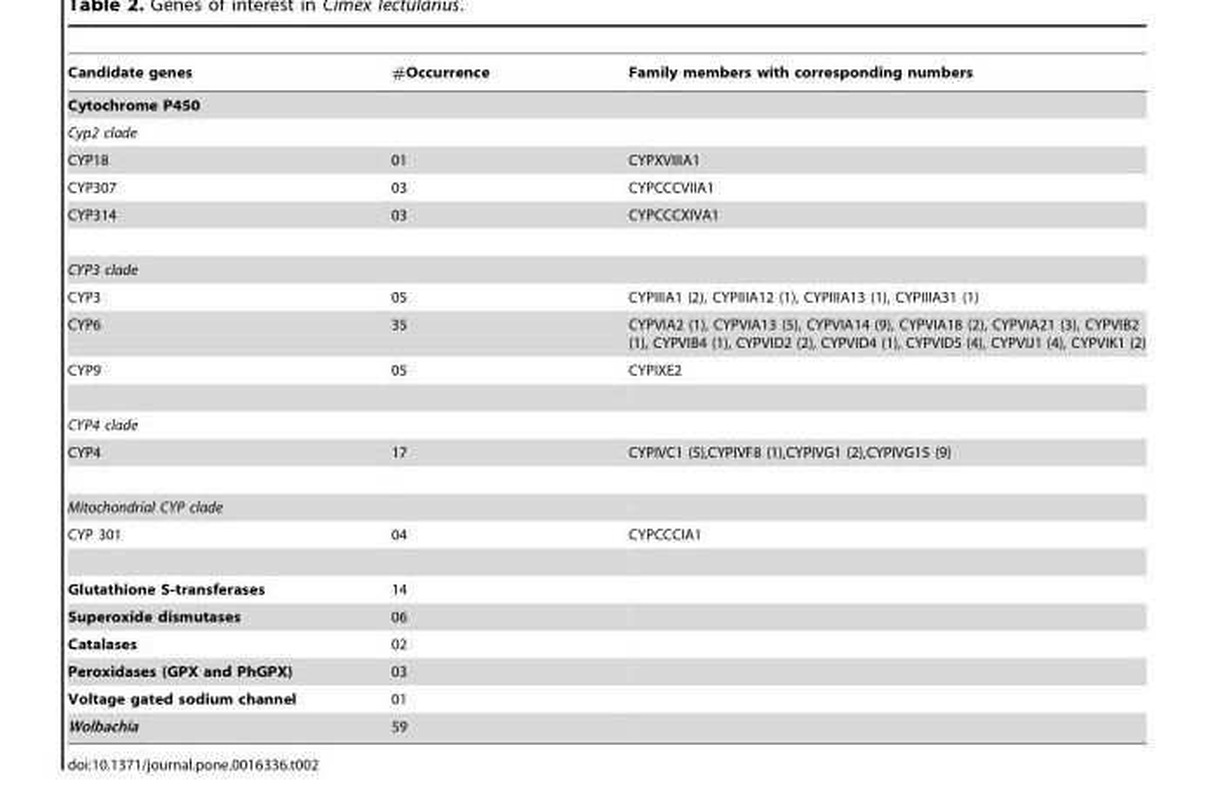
<table><thead><tr><td>Candidate genes</td><td>#Occurrence</td><td>Family members with corresponding numbers</td></tr></thead><tbody><tr><td colspan="3">Cytochrome P450</td></tr><tr><td colspan="3">Cyp2 clade</td></tr><tr><td>CYP18</td><td>01</td><td>CYPXVIIIA1</td></tr><tr><td>CYP307</td><td>03</td><td>CYPCCCVIIA1</td></tr><tr><td>CYP314</td><td>03</td><td>CYPCCCXIVA1</td></tr><tr><td colspan="3">CYP3 clade</td></tr><tr><td>CYP3</td><td>05</td><td>CYPIIIA1 (2), CYPIIIA12 (1), CYPIIIA13 (1), CYPIIIA31 (1)</td></tr><tr><td>CYP6</td><td>35</td><td>CYPVIA2 (1), CYPVIA13 (5), CYPVIA14 (9), CYPVIA18 (2), CYPVIA21 (3), CYPVIB2 (1), CYPVIB4 (1), CYPVID2 (2), CYPVID4 (1), CYPVID5 (4), CYPVIJ1 (4), CYPVIK1 (2)</td></tr><tr><td>CYP9</td><td>05</td><td>CYPIXE2</td></tr><tr><td colspan="3">CYP4 clade</td></tr><tr><td>CYP4</td><td>17</td><td>CYPIVC1 (5),CYPIVF8 (1),CYPIVG1 (2),CYPIVG15 (9)</td></tr><tr><td colspan="3">Mitochondrial CYP clade</td></tr><tr><td>CYP 301</td><td>04</td><td>CYPCCCIA1</td></tr><tr><td>Glutathione S-transferases</td><td>14</td><td></td></tr><tr><td>Superoxide dismutases</td><td>06</td><td></td></tr><tr><td>Catalases</td><td>02</td><td></td></tr><tr><td>Peroxidases (GPX and PhGPX)</td><td>03</td><td></td></tr><tr><td>Voltage gated sodium channel</td><td>01</td><td></td></tr><tr><td>Wolbachia</td><td>59</td><td></td></tr></tbody></table>